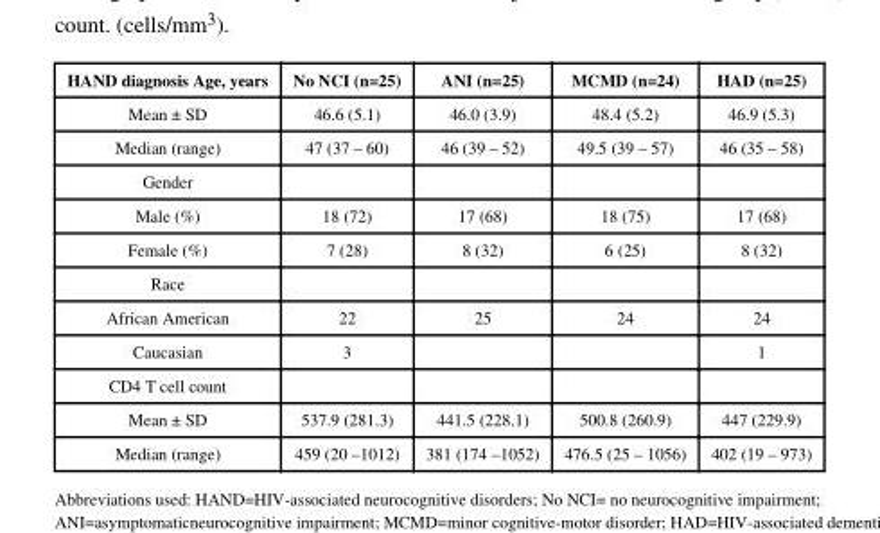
<table><thead><tr><td>HAND diagnosis Age, years</td><td>No NCI (n=25)</td><td>ANI (n=25)</td><td>MCMD (n=24)</td><td>HAD (n=25)</td></tr></thead><tbody><tr><td>Mean ± SD</td><td>46.6 (5.1)</td><td>46.0 (3.9)</td><td>48.4 (5.2)</td><td>46.9 (5.3)</td></tr><tr><td>Median (range)</td><td>47 (37 – 60)</td><td>46 (39 – 52)</td><td>49.5 (39 – 57)</td><td>46 (35 – 58)</td></tr><tr><td colspan="5">Gender</td></tr><tr><td>Male (%)</td><td>18 (72)</td><td>17 (68)</td><td>18 (75)</td><td>17 (68)</td></tr><tr><td>Female (%)</td><td>7 (28)</td><td>8 (32)</td><td>6 (25)</td><td>8 (32)</td></tr><tr><td colspan="5">Race</td></tr><tr><td>African American</td><td>22</td><td>25</td><td>24</td><td>24</td></tr><tr><td>Caucasian</td><td>3</td><td></td><td></td><td>1</td></tr><tr><td colspan="5">CD4 T cell count</td></tr><tr><td>Mean ± SD</td><td>537.9 (281.3)</td><td>441.5 (228.1)</td><td>500.8 (260.9)</td><td>447 (229.9)</td></tr><tr><td>Median (range)</td><td>459 (20 –1012)</td><td>381 (174 –1052)</td><td>476.5 (25 – 1056)</td><td>402 (19 – 973)</td></tr></tbody></table>